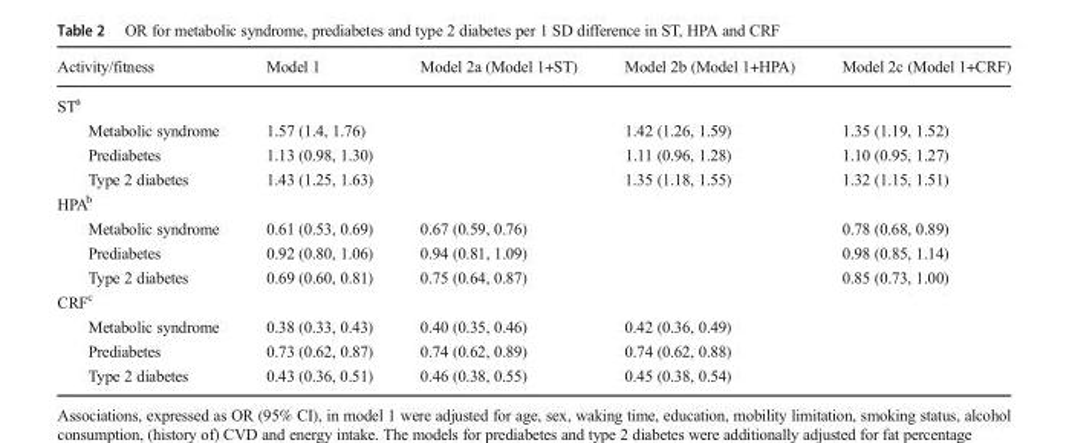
<table><thead><tr><td>Activity/fitness</td><td>Model 1</td><td>Model 2a (Model 1+ST)</td><td>Model 2b (Model 1+HPA)</td><td>Model 2c (Model 1+CRF)</td></tr></thead><tbody><tr><td colspan="5">ST<sup>a</sup></td></tr><tr><td>Metabolic syndrome</td><td>1.57 (1.4, 1.76)</td><td></td><td>1.42 (1.26, 1.59)</td><td>1.35 (1.19, 1.52)</td></tr><tr><td>Prediabetes</td><td>1.13 (0.98, 1.30)</td><td></td><td>1.11 (0.96, 1.28)</td><td>1.10 (0.95, 1.27)</td></tr><tr><td>Type 2 diabetes</td><td>1.43 (1.25, 1.63)</td><td></td><td>1.35 (1.18, 1.55)</td><td>1.32 (1.15, 1.51)</td></tr><tr><td colspan="5">HPA<sup>b</sup></td></tr><tr><td>Metabolic syndrome</td><td>0.61 (0.53, 0.69)</td><td>0.67 (0.59, 0.76)</td><td></td><td>0.78 (0.68, 0.89)</td></tr><tr><td>Prediabetes</td><td>0.92 (0.80, 1.06)</td><td>0.94 (0.81, 1.09)</td><td></td><td>0.98 (0.85, 1.14)</td></tr><tr><td>Type 2 diabetes</td><td>0.69 (0.60, 0.81)</td><td>0.75 (0.64, 0.87)</td><td></td><td>0.85 (0.73, 1.00)</td></tr><tr><td colspan="5">CRF<sup>c</sup></td></tr><tr><td>Metabolic syndrome</td><td>0.38 (0.33, 0.43)</td><td>0.40 (0.35, 0.46)</td><td>0.42 (0.36, 0.49)</td><td></td></tr><tr><td>Prediabetes</td><td>0.73 (0.62, 0.87)</td><td>0.74 (0.62, 0.89)</td><td>0.74 (0.62, 0.88)</td><td></td></tr><tr><td>Type 2 diabetes</td><td>0.43 (0.36, 0.51)</td><td>0.46 (0.38, 0.55)</td><td>0.45 (0.38, 0.54)</td><td></td></tr></tbody></table>